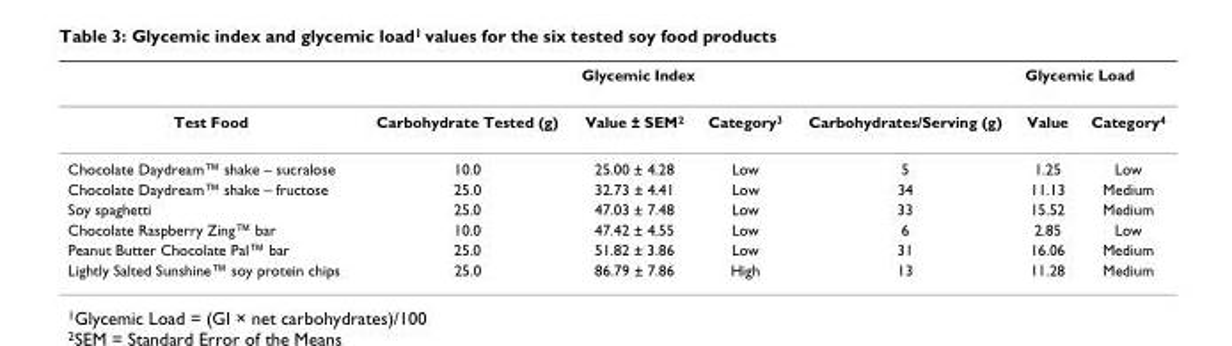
<table><thead><tr><td rowspan="2">Test Food</td><td rowspan="2">Carbohydrate Tested (g)</td><td colspan="2">Glycemic Index</td><td rowspan="2">Carbohydrates/Serving (g)</td><td colspan="2">Glycemic Load</td></tr><tr><td>Value ± SEM<sup>2</sup></td><td>Category<sup>3</sup></td><td>Value</td><td>Category<sup>4</sup></td></tr></thead><tbody><tr><td>Chocolate Daydream™ shake – sucralose</td><td>10.0</td><td>25.00 ± 4.28</td><td>Low</td><td>5</td><td>1.25</td><td>Low</td></tr><tr><td>Chocolate Daydream™ shake – fructose</td><td>25.0</td><td>32.73 ± 4.41</td><td>Low</td><td>34</td><td>11.13</td><td>Medium</td></tr><tr><td>Soy spaghetti</td><td>25.0</td><td>47.03 ± 7.48</td><td>Low</td><td>33</td><td>15.52</td><td>Medium</td></tr><tr><td>Chocolate Raspberry Zing™ bar</td><td>10.0</td><td>47.42 ± 4.55</td><td>Low</td><td>6</td><td>2.85</td><td>Low</td></tr><tr><td>Peanut Butter Chocolate Pal™ bar</td><td>25.0</td><td>51.82 ± 3.86</td><td>Low</td><td>31</td><td>16.06</td><td>Medium</td></tr><tr><td>Lightly Salted Sunshine™ soy protein chips</td><td>25.0</td><td>86.79 ± 7.86</td><td>High</td><td>13</td><td>11.28</td><td>Medium</td></tr></tbody></table>